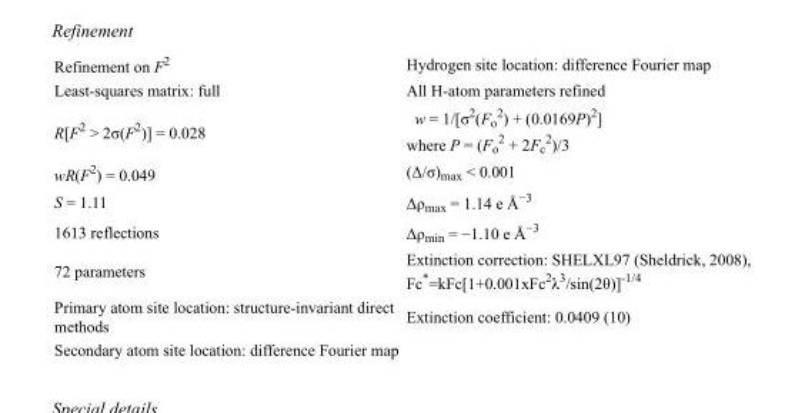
<table><tbody><tr><td>Refinement on F<sup>2</sup></td><td>Hydrogen site location: difference Fourier map</td></tr><tr><td>Least-squares matrix: full</td><td>All H-atom parameters refined</td></tr><tr><td>R[F<sup>2</sup> &gt; 2σ(F<sup>2</sup>)] = 0.028</td><td>w = 1/[σ<sup>2</sup>(F<sub>o</sub> <sup>2</sup>) + (0.0169P)<sup>2</sup>] where P = (F<sub>o</sub> <sup>2</sup> + 2F<sub>c</sub> <sup>2</sup>)/3</td></tr><tr><td>wR(F<sup>2</sup>) = 0.049</td><td>(Δ/σ)<sub>max</sub> &lt; 0.001</td></tr><tr><td>S = 1.11</td><td>Δρ<sub>max</sub> = 1.14 e Å<sup>−3</sup></td></tr><tr><td>1613 reflections</td><td>Δρ<sub>min</sub> = −1.10 e Å<sup>−3</sup></td></tr><tr><td>72 parameters</td><td>Extinction correction: SHELXL97 (Sheldrick, 2008), Fc*=kFc[1+0.001xFc<sup>2</sup>λ<sup>3</sup>/sin(2θ)]<sup>-1/4</sup></td></tr><tr><td>Primary atom site location: structure-invariant direct methods</td><td>Extinction coefficient: 0.0409 (10)</td></tr><tr><td>Secondary atom site location: difference Fourier map</td><td></td></tr></tbody></table>